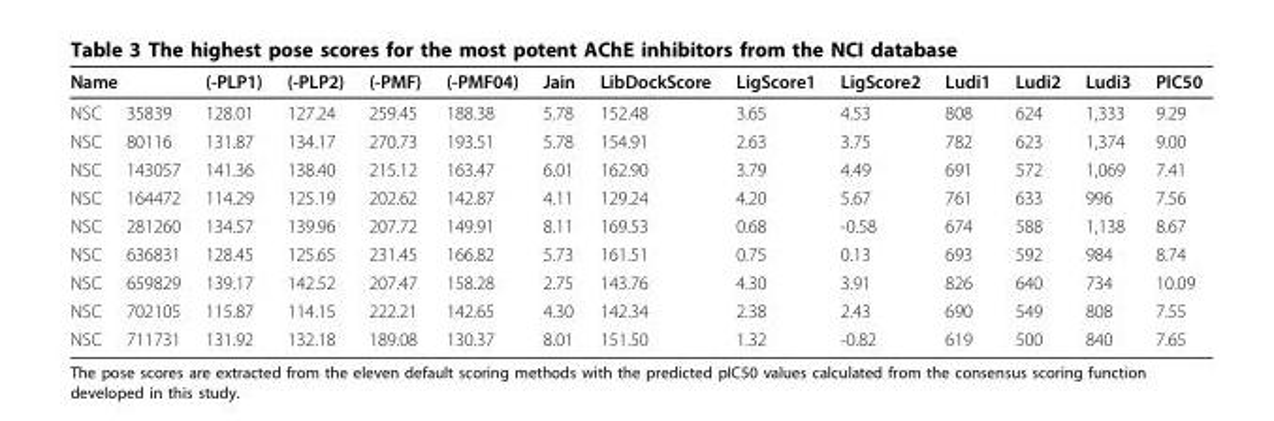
<table><thead><tr><td colspan="2">Name</td><td rowspan="2">(-PLP1) 128.01</td><td rowspan="2">(-PLP2) 127.24</td><td rowspan="2">(-PMF) 259.45</td><td rowspan="2">(-PMF04) 188.38</td><td rowspan="2">Jain 5.78</td><td rowspan="2">LibDockScore 152.48</td><td rowspan="2">LigScore1 3.65</td><td rowspan="2">LigScore2 4.53</td><td rowspan="2">Ludi1 808</td><td rowspan="2">Ludi2 624</td><td rowspan="2">Ludi3 1,333</td><td rowspan="2">PIC50 9.29</td></tr><tr><td>NSC</td><td>35839</td></tr></thead><tbody><tr><td>NSC</td><td>80116</td><td>131.87</td><td>134.17</td><td>270.73</td><td>193.51</td><td>5.78</td><td>154.91</td><td>2.63</td><td>3.75</td><td>782</td><td>623</td><td>1,374</td><td>9.00</td></tr><tr><td>NSC</td><td>143057</td><td>141.36</td><td>138.40</td><td>215.12</td><td>163.47</td><td>6.01</td><td>162.90</td><td>3.79</td><td>4.49</td><td>691</td><td>572</td><td>1,069</td><td>7.41</td></tr><tr><td>NSC</td><td>164472</td><td>114.29</td><td>125.19</td><td>202.62</td><td>142.87</td><td>4.11</td><td>129.24</td><td>4.20</td><td>5.67</td><td>761</td><td>633</td><td>996</td><td>7.56</td></tr><tr><td>NSC</td><td>281260</td><td>134.57</td><td>139.96</td><td>207.72</td><td>149.91</td><td>8.11</td><td>169.53</td><td>0.68</td><td>-0.58</td><td>674</td><td>588</td><td>1,138</td><td>8.67</td></tr><tr><td>NSC</td><td>636831</td><td>128.45</td><td>125.65</td><td>231.45</td><td>166.82</td><td>5.73</td><td>161.51</td><td>0.75</td><td>0.13</td><td>693</td><td>592</td><td>984</td><td>8.74</td></tr><tr><td>NSC</td><td>659829</td><td>139.17</td><td>142.52</td><td>207.47</td><td>158.28</td><td>2.75</td><td>143.76</td><td>4.30</td><td>3.91</td><td>826</td><td>640</td><td>734</td><td>10.09</td></tr><tr><td>NSC</td><td>702105</td><td>115.87</td><td>114.15</td><td>222.21</td><td>142.65</td><td>4.30</td><td>142.34</td><td>2.38</td><td>2.43</td><td>690</td><td>549</td><td>808</td><td>7.55</td></tr><tr><td>NSC</td><td>711731</td><td>131.92</td><td>132.18</td><td>189.08</td><td>130.37</td><td>8.01</td><td>151.50</td><td>1.32</td><td>-0.82</td><td>619</td><td>500</td><td>840</td><td>7.65</td></tr></tbody></table>